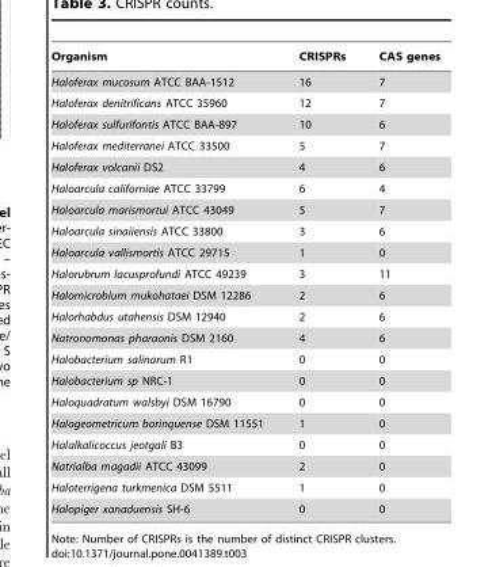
<table><thead><tr><td>Organism</td><td>CRISPRs</td><td>CAS genes</td></tr></thead><tbody><tr><td>Haloferax mucosum ATCC BAA-1512</td><td>16</td><td>7</td></tr><tr><td>Haloferax denitrificans ATCC 35960</td><td>12</td><td>7</td></tr><tr><td>Haloferax sulfurifontis ATCC BAA-897</td><td>10</td><td>6</td></tr><tr><td>Haloferax mediterranei ATCC 33500</td><td>5</td><td>7</td></tr><tr><td>Haloferax volcanii DS2</td><td>4</td><td>6</td></tr><tr><td>Haloarcula californiae ATCC 33799</td><td>6</td><td>4</td></tr><tr><td>Haloarcula marismortui ATCC 43049</td><td>5</td><td>7</td></tr><tr><td>Haloarcula sinaiiensis ATCC 33800</td><td>3</td><td>6</td></tr><tr><td>Haloarcula vallismortis ATCC 29715</td><td>1</td><td>0</td></tr><tr><td>Halorubrum lacusprofundi ATCC 49239</td><td>3</td><td>11</td></tr><tr><td>Halomicrobium mukohataei DSM 12286</td><td>2</td><td>6</td></tr><tr><td>Halorhabdus utahensis DSM 12940</td><td>2</td><td>6</td></tr><tr><td>Natronomonas pharaonis DSM 2160</td><td>4</td><td>6</td></tr><tr><td>Halobacterium salinarum R1</td><td>0</td><td>0</td></tr><tr><td>Halobacterium sp NRC-1</td><td>0</td><td>0</td></tr><tr><td>Haloquadratum walsbyi DSM 16790</td><td>0</td><td>0</td></tr><tr><td>Halogeometricum borinquense DSM 11551</td><td>1</td><td>0</td></tr><tr><td>Halalkalicoccus jeotgali B3</td><td>0</td><td>0</td></tr><tr><td>Natrialba magadii ATCC 43099</td><td>2</td><td>0</td></tr><tr><td>Haloterrigena turkmenica DSM 5511</td><td>1</td><td>0</td></tr><tr><td>Halopiger xanaduensis SH-6</td><td>0</td><td>0</td></tr></tbody></table>